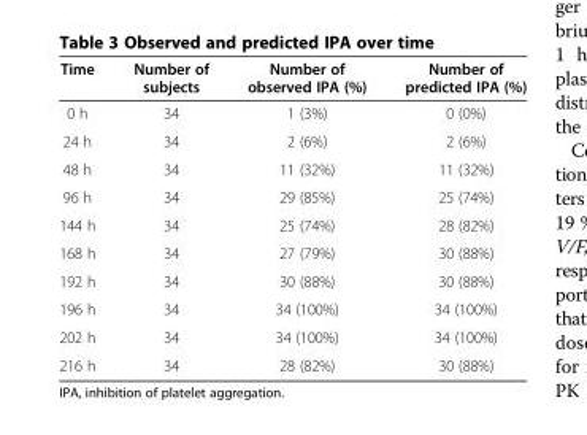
<table><thead><tr><td>Time</td><td>Number of subjects</td><td>Number of observed IPA (%)</td><td>Number of predicted IPA (%)</td></tr></thead><tbody><tr><td>0 h</td><td>34</td><td>1 (3%)</td><td>0 (0%)</td></tr><tr><td>24 h</td><td>34</td><td>2 (6%)</td><td>2 (6%)</td></tr><tr><td>48 h</td><td>34</td><td>11 (32%)</td><td>11 (32%)</td></tr><tr><td>96 h</td><td>34</td><td>29 (85%)</td><td>25 (74%)</td></tr><tr><td>144 h</td><td>34</td><td>25 (74%)</td><td>28 (82%)</td></tr><tr><td>168 h</td><td>34</td><td>27 (79%)</td><td>30 (88%)</td></tr><tr><td>192 h</td><td>34</td><td>30 (88%)</td><td>30 (88%)</td></tr><tr><td>196 h</td><td>34</td><td>34 (100%)</td><td>34 (100%)</td></tr><tr><td>202 h</td><td>34</td><td>34 (100%)</td><td>34 (100%)</td></tr><tr><td>216 h</td><td>34</td><td>28 (82%)</td><td>30 (88%)</td></tr></tbody></table>